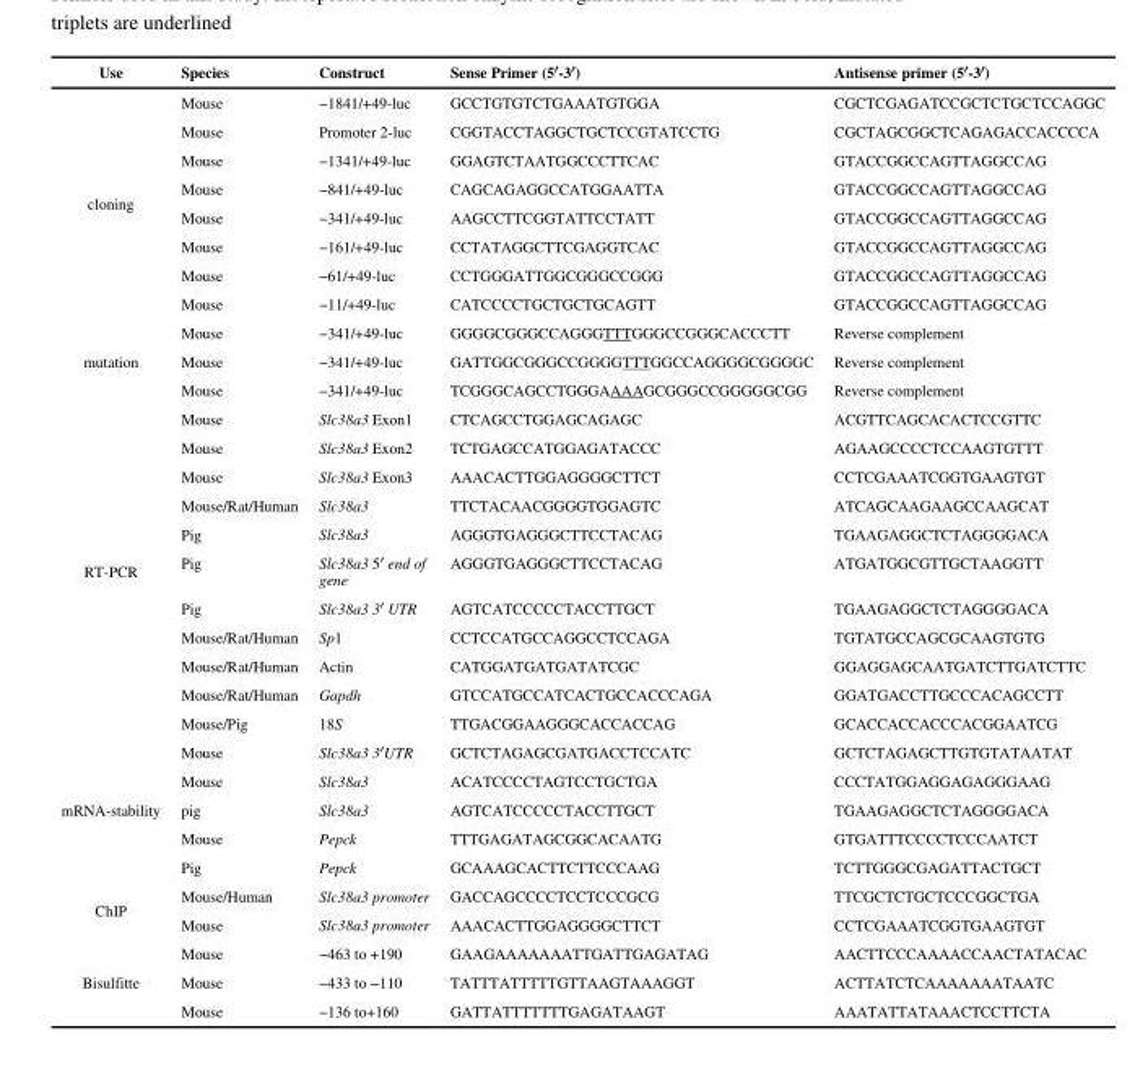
<table><thead><tr><td>Use</td><td>Species</td><td>Construct</td><td>Sense Primer (5′-3′)</td><td>Antisense primer (5′-3′)</td></tr></thead><tbody><tr><td rowspan="8">cloning</td><td>Mouse</td><td>−1841/+49-luc</td><td>GCCTGTGTCTGAAATGTGGA</td><td>CGCTCGAGATCCGCTCTGCTCCAGGC</td></tr><tr><td>Mouse</td><td>Promoter 2-luc</td><td>CGGTACCTAGGCTGCTCCGTATCCTG</td><td>CGCTAGCGGCTCAGAGACCACCCCA</td></tr><tr><td>Mouse</td><td>−1341/+49-luc</td><td>GGAGTCTAATGGCCCTTCAC</td><td>GTACCGGCCAGTTAGGCCAG</td></tr><tr><td>Mouse</td><td>−841/+49-luc</td><td>CAGCAGAGGCCATGGAATTA</td><td>GTACCGGCCAGTTAGGCCAG</td></tr><tr><td>Mouse</td><td>−341/+49-luc</td><td>AAGCCTTCGGTATTCCTATT</td><td>GTACCGGCCAGTTAGGCCAG</td></tr><tr><td>Mouse</td><td>−161/+49-luc</td><td>CCTATAGGCTTCGAGGTCAC</td><td>GTACCGGCCAGTTAGGCCAG</td></tr><tr><td>Mouse</td><td>−61/+49-luc</td><td>CCTGGGATTGGCGGGCCGGG</td><td>GTACCGGCCAGTTAGGCCAG</td></tr><tr><td>Mouse</td><td>−11/+49-luc</td><td>CATCCCCTGCTGCTGCAGTT</td><td>GTACCGGCCAGTTAGGCCAG</td></tr><tr><td rowspan="3">mutation</td><td>Mouse</td><td>−341/+49-luc</td><td>GGGGCGGGCCAGGGTTTGGGCCGGGCACCCTT</td><td>Reverse complement</td></tr><tr><td>Mouse</td><td>−341/+49-luc</td><td>GATTGGCGGGCCGGGGTTTGGCCAGGGGCGGGGC</td><td>Reverse complement</td></tr><tr><td>Mouse</td><td>−341/+49-luc</td><td>TCGGGCAGCCTGGGAAAAGCGGGCCGGGGGCGG</td><td>Reverse complement</td></tr><tr><td rowspan="11">RT-PCR</td><td>Mouse</td><td>Slc38a3 Exon1</td><td>CTCAGCCTGGAGCAGAGC</td><td>ACGTTCAGCACACTCCGTTC</td></tr><tr><td>Mouse</td><td>Slc38a3 Exon2</td><td>TCTGAGCCATGGAGATACCC</td><td>AGAAGCCCCTCCAAGTGTTT</td></tr><tr><td>Mouse</td><td>Slc38a3 Exon3</td><td>AAACACTTGGAGGGGCTTCT</td><td>CCTCGAAATCGGTGAAGTGT</td></tr><tr><td>Mouse/Rat/Human</td><td>Slc38a3</td><td>TTCTACAACGGGGTGGAGTC</td><td>ATCAGCAAGAAGCCAAGCAT</td></tr><tr><td>Pig</td><td>Slc38a3</td><td>AGGGTGAGGGCTTCCTACAG</td><td>TGAAGAGGCTCTAGGGGACA</td></tr><tr><td>Pig</td><td>Slc38a3 5′ end of gene</td><td>AGGGTGAGGGCTTCCTACAG</td><td>ATGATGGCGTTGCTAAGGTT</td></tr><tr><td>Pig</td><td>Slc38a3 3′ UTR</td><td>AGTCATCCCCCTACCTTGCT</td><td>TGAAGAGGCTCTAGGGGACA</td></tr><tr><td>Mouse/Rat/Human</td><td>Sp1</td><td>CCTCCATGCCAGGCCTCCAGA</td><td>TGTATGCCAGCGCAAGTGTG</td></tr><tr><td>Mouse/Rat/Human</td><td>Actin</td><td>CATGGATGATGATATCGC</td><td>GGAGGAGCAATGATCTTGATCTTC</td></tr><tr><td>Mouse/Rat/Human</td><td>Gapdh</td><td>GTCCATGCCATCACTGCCACCCAGA</td><td>GGATGACCTTGCCCACAGCCTT</td></tr><tr><td>Mouse/Pig</td><td>18S</td><td>TTGACGGAAGGGCACCACCAG</td><td>GCACCACCACCCACGGAATCG</td></tr><tr><td rowspan="5">mRNA-stability</td><td>Mouse</td><td>Slc38a3 3′UTR</td><td>GCTCTAGAGCGATGACCTCCATC</td><td>GCTCTAGAGCTTGTGTATAATAT</td></tr><tr><td>Mouse</td><td>Slc38a3</td><td>ACATCCCCTAGTCCTGCTGA</td><td>CCCTATGGAGGAGAGGGAAG</td></tr><tr><td>pig</td><td>Slc38a3</td><td>AGTCATCCCCCTACCTTGCT</td><td>TGAAGAGGCTCTAGGGGACA</td></tr><tr><td>Mouse</td><td>Pepck</td><td>TTTGAGATAGCGGCACAATG</td><td>GTGATTTCCCCTCCCAATCT</td></tr><tr><td>Pig</td><td>Pepck</td><td>GCAAAGCACTTCTTCCCAAG</td><td>TCTTGGGCGAGATTACTGCT</td></tr><tr><td rowspan="2">ChIP</td><td>Mouse/Human</td><td>Slc38a3 promoter</td><td>GACCAGCCCCTCCTCCCGCG</td><td>TTCGCTCTGCTCCCGGCTGA</td></tr><tr><td>Mouse</td><td>Slc38a3 promoter</td><td>AAACACTTGGAGGGGCTTCT</td><td>CCTCGAAATCGGTGAAGTGT</td></tr><tr><td rowspan="3">Bisulfitte</td><td>Mouse</td><td>−463 to +190</td><td>GAAGAAAAAAATTGATTGAGATAG</td><td>AACTTCCCAAAACCAACTATACAC</td></tr><tr><td>Mouse</td><td>−433 to −110</td><td>TATTTATTTTTGTTAAGTAAAGGT</td><td>ACTTATCTCAAAAAAATAATC</td></tr><tr><td>Mouse</td><td>−136 to+160</td><td>GATTATTTTTTTGAGATAAGT</td><td>AAATATTATAAACTCCTTCTA</td></tr></tbody></table>